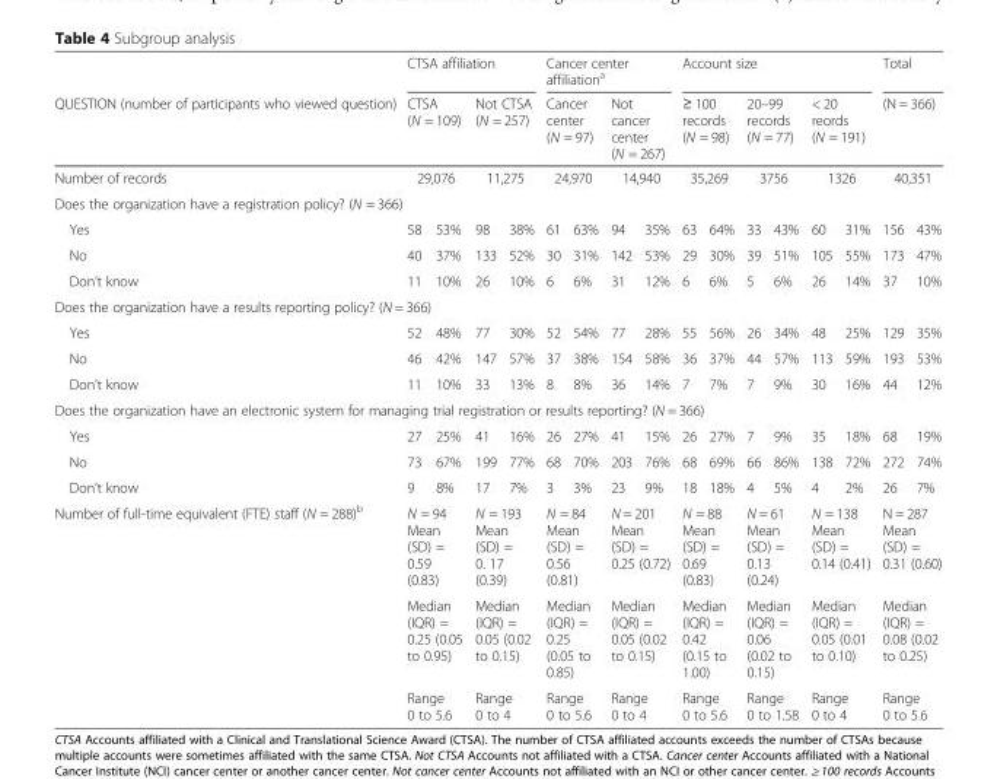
<table><thead><tr><td rowspan="3">QUESTION (number of participants who viewed question) Number of records</td><td colspan="4">CTSA affiliation</td><td colspan="4">Cancer center affiliation<sup>a</sup></td><td colspan="6">Account size</td><td rowspan="3" colspan="2">Total (N = 366) 40,351</td></tr><tr><td rowspan="2" colspan="2">CTSA (N = 109) 29,076</td><td rowspan="2" colspan="2">Not CTSA (N = 257) 11,275</td><td rowspan="2" colspan="2">Cancer center (N = 97) 24,970</td><td rowspan="2" colspan="2">Not cancer center (N = 267) 14,940</td><td rowspan="2" colspan="2">≥ 100 records (N = 98) 35,269</td><td rowspan="2" colspan="2">20–99 records (N = 77) 3756</td><td rowspan="2" colspan="2">&lt; 20 reords (N = 191) 1326</td></tr><tr></tr><tr><td colspan="17">Does the organization have a registration policy? (N = 366)</td></tr><tr><td>Yes</td><td>58</td><td>53%</td><td>98</td><td>38%</td><td>61</td><td>63%</td><td>94</td><td>35%</td><td>63</td><td>64%</td><td>33</td><td>43%</td><td>60</td><td>31%</td><td>156</td><td>43%</td></tr></thead><tbody><tr><td>No</td><td>40</td><td>37%</td><td>133</td><td>52%</td><td>30</td><td>31%</td><td>142</td><td>53%</td><td>29</td><td>30%</td><td>39</td><td>51%</td><td>105</td><td>55%</td><td>173</td><td>47%</td></tr><tr><td>Don’t know</td><td>11</td><td>10%</td><td>26</td><td>10%</td><td>6</td><td>6%</td><td>31</td><td>12%</td><td>6</td><td>6%</td><td>5</td><td>6%</td><td>26</td><td>14%</td><td>37</td><td>10%</td></tr><tr><td colspan="17">Does the organization have a results reporting policy? (N = 366)</td></tr><tr><td>Yes</td><td>52</td><td>48%</td><td>77</td><td>30%</td><td>52</td><td>54%</td><td>77</td><td>28%</td><td>55</td><td>56%</td><td>26</td><td>34%</td><td>48</td><td>25%</td><td>129</td><td>35%</td></tr><tr><td>No</td><td>46</td><td>42%</td><td>147</td><td>57%</td><td>37</td><td>38%</td><td>154</td><td>58%</td><td>36</td><td>37%</td><td>44</td><td>57%</td><td>113</td><td>59%</td><td>193</td><td>53%</td></tr><tr><td>Don’t know</td><td>11</td><td>10%</td><td>33</td><td>13%</td><td>8</td><td>8%</td><td>36</td><td>14%</td><td>7</td><td>7%</td><td>7</td><td>9%</td><td>30</td><td>16%</td><td>44</td><td>12%</td></tr><tr><td colspan="17">Does the organization have an electronic system for managing trial registration or results reporting? (N = 366)</td></tr><tr><td>Yes</td><td>27</td><td>25%</td><td>41</td><td>16%</td><td>26</td><td>27%</td><td>41</td><td>15%</td><td>26</td><td>27%</td><td>7</td><td>9%</td><td>35</td><td>18%</td><td>68</td><td>19%</td></tr><tr><td>No</td><td>73</td><td>67%</td><td>199</td><td>77%</td><td>68</td><td>70%</td><td>203</td><td>76%</td><td>68</td><td>69%</td><td>66</td><td>86%</td><td>138</td><td>72%</td><td>272</td><td>74%</td></tr><tr><td>Don’t know</td><td>9</td><td>8%</td><td>17</td><td>7%</td><td>3</td><td>3%</td><td>23</td><td>9%</td><td>18</td><td>18%</td><td>4</td><td>5%</td><td>4</td><td>2%</td><td>26</td><td>7%</td></tr><tr><td rowspan="3">Number of full-time equivalent (FTE) staff (N = 288)<sup>b</sup></td><td colspan="2">N = 94 Mean (SD) = 0.59 (0.83)</td><td colspan="2">N = 193 Mean (SD) = 0. 17 (0.39)</td><td colspan="2">N = 84 Mean (SD) = 0.56 (0.81)</td><td colspan="2">N = 201 Mean (SD) = 0.25 (0.72)</td><td colspan="2">N = 88 Mean (SD) = 0.69 (0.83)</td><td colspan="2">N = 61 Mean (SD) = 0.13 (0.24)</td><td colspan="2">N = 138 Mean (SD) = 0.14 (0.41)</td><td colspan="2">N = 287 Mean (SD) = 0.31 (0.60)</td></tr><tr><td colspan="2">Median (IQR) = 0.25 (0.05 to 0.95)</td><td colspan="2">Median (IQR) = 0.05 (0.02 to 0.15)</td><td colspan="2">Median (IQR) = 0.25 (0.05 to 0.85)</td><td colspan="2">Median (IQR) = 0.05 (0.02 to 0.15)</td><td colspan="2">Median (IQR) = 0.42 (0.15 to 1.00)</td><td colspan="2">Median (IQR) = 0.06 (0.02 to 0.15)</td><td colspan="2">Median (IQR) = 0.05 (0.01 to 0.10)</td><td colspan="2">Median (IQR) = 0.08 (0.02 to 0.25)</td></tr><tr><td colspan="2">Range 0 to 5.6</td><td colspan="2">Range 0 to 4</td><td colspan="2">Range 0 to 5.6</td><td colspan="2">Range 0 to 4</td><td colspan="2">Range 0 to 5.6</td><td colspan="2">Range 0 to 1.58</td><td colspan="2">Range 0 to 4</td><td colspan="2">Range 0 to 5.6</td></tr></tbody></table>